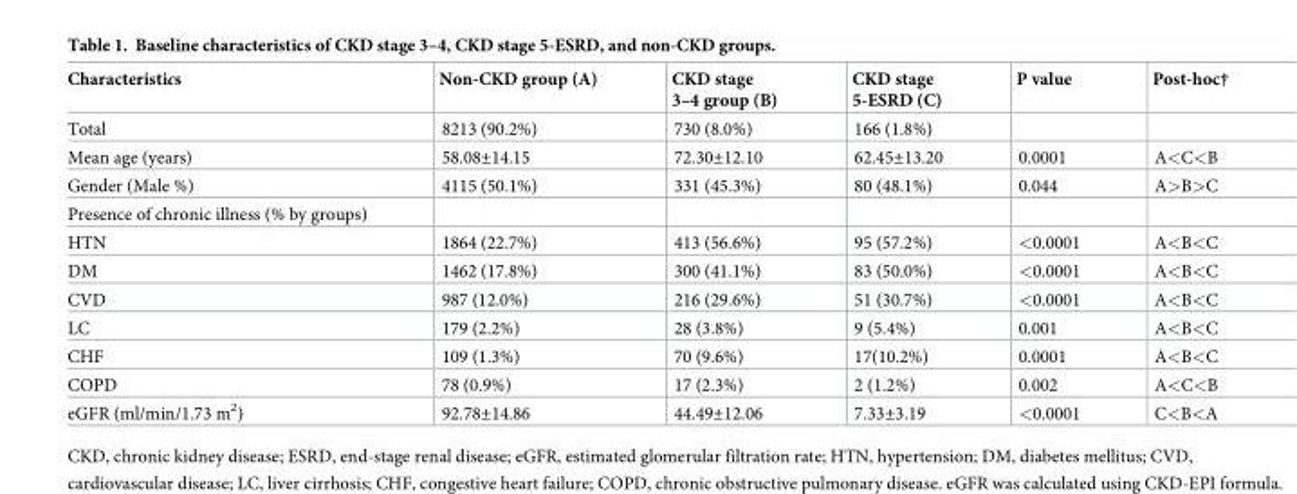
<table><thead><tr><td>Characteristics</td><td>Non-CKD group (A)</td><td>CKD stage 3–4 group (B)</td><td>CKD stage 5-ESRD (C)</td><td>P value</td><td>Post-hoc†</td></tr></thead><tbody><tr><td>Total</td><td>8213 (90.2%)</td><td>730 (8.0%)</td><td>166 (1.8%)</td><td></td><td></td></tr><tr><td>Mean age (years)</td><td>58.08±14.15</td><td>72.30±12.10</td><td>62.45±13.20</td><td>0.0001</td><td>A&lt;C&lt;B</td></tr><tr><td>Gender (Male %)</td><td>4115 (50.1%)</td><td>331 (45.3%)</td><td>80 (48.1%)</td><td>0.044</td><td>A&gt;B&gt;C</td></tr><tr><td colspan="6">Presence of chronic illness (% by groups)</td></tr><tr><td>HTN</td><td>1864 (22.7%)</td><td>413 (56.6%)</td><td>95 (57.2%)</td><td>&lt;0.0001</td><td>A&lt;B&lt;C</td></tr><tr><td>DM</td><td>1462 (17.8%)</td><td>300 (41.1%)</td><td>83 (50.0%)</td><td>&lt;0.0001</td><td>A&lt;B&lt;C</td></tr><tr><td>CVD</td><td>987 (12.0%)</td><td>216 (29.6%)</td><td>51 (30.7%)</td><td>&lt;0.0001</td><td>A&lt;B&lt;C</td></tr><tr><td>LC</td><td>179 (2.2%)</td><td>28 (3.8%)</td><td>9 (5.4%)</td><td>0.001</td><td>A&lt;B&lt;C</td></tr><tr><td>CHF</td><td>109 (1.3%)</td><td>70 (9.6%)</td><td>17(10.2%)</td><td>0.0001</td><td>A&lt;B&lt;C</td></tr><tr><td>COPD</td><td>78 (0.9%)</td><td>17 (2.3%)</td><td>2 (1.2%)</td><td>0.002</td><td>A&lt;C&lt;B</td></tr><tr><td>eGFR (ml/min/1.73 m<sup>2</sup>)</td><td>92.78±14.86</td><td>44.49±12.06</td><td>7.33±3.19</td><td>&lt;0.0001</td><td>C&lt;B&lt;A</td></tr></tbody></table>